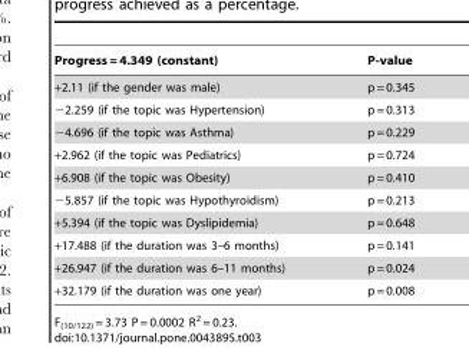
<table><thead><tr><td>Progress = 4.349 (constant)</td><td>P-value</td></tr></thead><tbody><tr><td>+2.11 (if the gender was male)</td><td>p = 0.345</td></tr><tr><td>−2.259 (if the topic was Hypertension)</td><td>p = 0.313</td></tr><tr><td>−4.696 (if the topic was Asthma)</td><td>p = 0.229</td></tr><tr><td>+2.962 (if the topic was Pediatrics)</td><td>p = 0.724</td></tr><tr><td>+6.908 (if the topic was Obesity)</td><td>p = 0.410</td></tr><tr><td>−5.857 (if the topic was Hypothyroidism)</td><td>p = 0.213</td></tr><tr><td>+5.394 (if the topic was Dyslipidemia)</td><td>p = 0.648</td></tr><tr><td>+17.488 (if the duration was 3–6 months)</td><td>p = 0.141</td></tr><tr><td>+26.947 (if the duration was 6–11 months)</td><td>p = 0.024</td></tr><tr><td>+32.179 (if the duration was one year)</td><td>p = 0.008</td></tr></tbody></table>